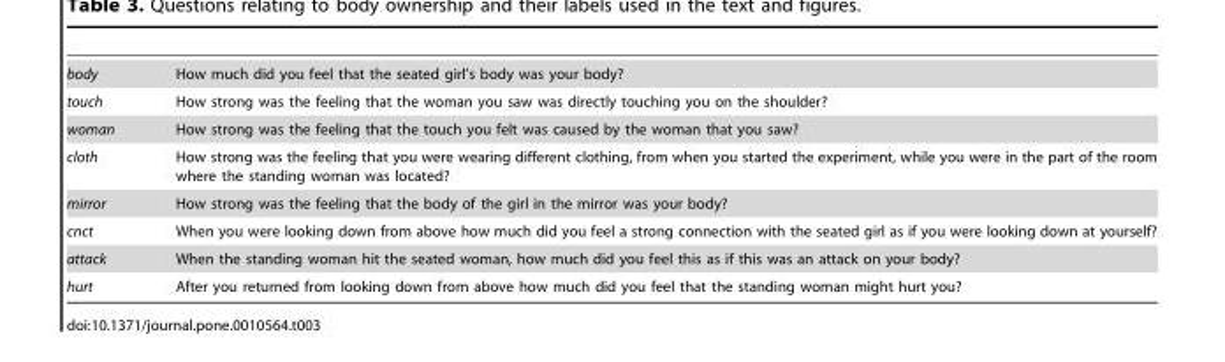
<table><tbody><tr><td>body</td><td>How much did you feel that the seated girl’s body was your body?</td></tr><tr><td>touch</td><td>How strong was the feeling that the woman you saw was directly touching you on the shoulder?</td></tr><tr><td>woman</td><td>How strong was the feeling that the touch you felt was caused by the woman that you saw?</td></tr><tr><td>cloth</td><td>How strong was the feeling that you were wearing different clothing, from when you started the experiment, while you were in the part of the room where the standing woman was located?</td></tr><tr><td>mirror</td><td>How strong was the feeling that the body of the girl in the mirror was your body?</td></tr><tr><td>cnct</td><td>When you were looking down from above how much did you feel a strong connection with the seated girl as if you were looking down at yourself?</td></tr><tr><td>attack</td><td>When the standing woman hit the seated woman, how much did you feel this as if this was an attack on your body?</td></tr><tr><td>hurt</td><td>After you returned from looking down from above how much did you feel that the standing woman might hurt you?</td></tr></tbody></table>